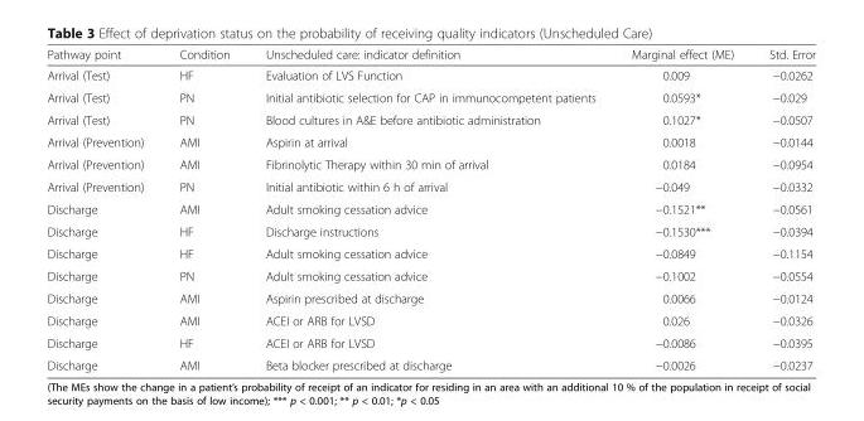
<table><thead><tr><td>Pathway point</td><td>Condition</td><td>Unscheduled care: indicator definition</td><td>Marginal effect (ME)</td><td>Std. Error</td></tr></thead><tbody><tr><td>Arrival (Test)</td><td>HF</td><td>Evaluation of LVS Function</td><td>0.009</td><td>−0.0262</td></tr><tr><td>Arrival (Test)</td><td>PN</td><td>Initial antibiotic selection for CAP in immunocompetent patients</td><td>0.0593*</td><td>−0.029</td></tr><tr><td>Arrival (Test)</td><td>PN</td><td>Blood cultures in A&amp;E before antibiotic administration</td><td>0.1027*</td><td>−0.0507</td></tr><tr><td>Arrival (Prevention)</td><td>AMI</td><td>Aspirin at arrival</td><td>0.0018</td><td>−0.0144</td></tr><tr><td>Arrival (Prevention)</td><td>AMI</td><td>Fibrinolytic Therapy within 30 min of arrival</td><td>0.0184</td><td>−0.0954</td></tr><tr><td>Arrival (Prevention)</td><td>PN</td><td>Initial antibiotic within 6 h of arrival</td><td>−0.049</td><td>−0.0332</td></tr><tr><td>Discharge</td><td>AMI</td><td>Adult smoking cessation advice</td><td>−0.1521**</td><td>−0.0561</td></tr><tr><td>Discharge</td><td>HF</td><td>Discharge instructions</td><td>−0.1530***</td><td>−0.0394</td></tr><tr><td>Discharge</td><td>HF</td><td>Adult smoking cessation advice</td><td>−0.0849</td><td>−0.1154</td></tr><tr><td>Discharge</td><td>PN</td><td>Adult smoking cessation advice</td><td>−0.1002</td><td>−0.0554</td></tr><tr><td>Discharge</td><td>AMI</td><td>Aspirin prescribed at discharge</td><td>0.0066</td><td>−0.0124</td></tr><tr><td>Discharge</td><td>AMI</td><td>ACEI or ARB for LVSD</td><td>0.026</td><td>−0.0326</td></tr><tr><td>Discharge</td><td>HF</td><td>ACEI or ARB for LVSD</td><td>−0.0086</td><td>−0.0395</td></tr><tr><td>Discharge</td><td>AMI</td><td>Beta blocker prescribed at discharge</td><td>−0.0026</td><td>−0.0237</td></tr></tbody></table>